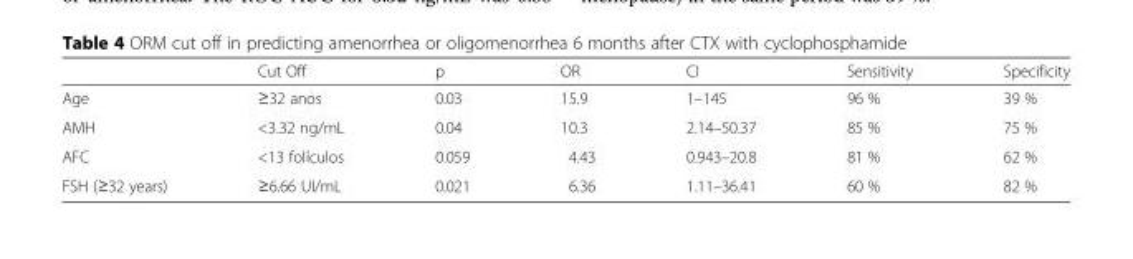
<table><thead><tr><td></td><td>Cut Off</td><td>p</td><td>OR</td><td>CI</td><td>Sensitivity</td><td>Specificity</td></tr></thead><tbody><tr><td>Age</td><td>≥32 anos</td><td>0.03</td><td>15.9</td><td>1–145</td><td>96 %</td><td>39 %</td></tr><tr><td>AMH</td><td>&lt;3.32 ng/mL</td><td>0.04</td><td>10.3</td><td>2.14–50.37</td><td>85 %</td><td>75 %</td></tr><tr><td>AFC</td><td>&lt;13 folículos</td><td>0.059</td><td>4.43</td><td>0.943–20.8</td><td>81 %</td><td>62 %</td></tr><tr><td>FSH (≥32 years)</td><td>≥6.66 UI/mL</td><td>0.021</td><td>6.36</td><td>1.11–36.41</td><td>60 %</td><td>82 %</td></tr></tbody></table>